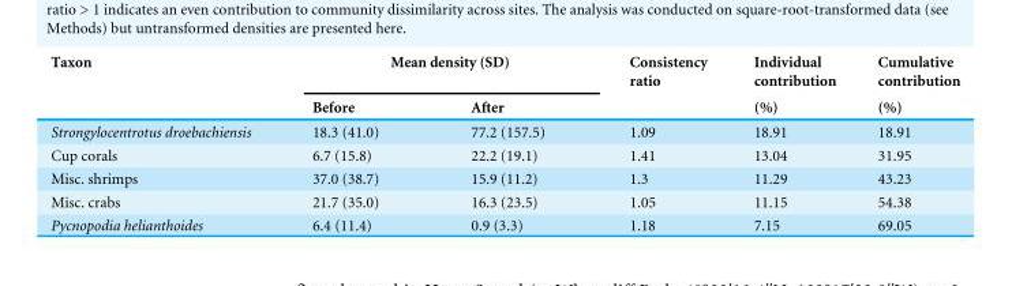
<table><thead><tr><td rowspan="2">Taxon</td><td colspan="2">Mean density (SD)</td><td rowspan="2">Consistency ratio</td><td rowspan="2">Individual contribution (%)</td><td rowspan="2">Cumulative contribution (%)</td></tr><tr><td>Before</td><td>After</td></tr></thead><tbody><tr><td>Strongylocentrotus droebachiensis</td><td>18.3 (41.0)</td><td>77.2 (157.5)</td><td>1.09</td><td>18.91</td><td>18.91</td></tr><tr><td>Cup corals</td><td>6.7 (15.8)</td><td>22.2 (19.1)</td><td>1.41</td><td>13.04</td><td>31.95</td></tr><tr><td>Misc. shrimps</td><td>37.0 (38.7)</td><td>15.9 (11.2)</td><td>1.3</td><td>11.29</td><td>43.23</td></tr><tr><td>Misc. crabs</td><td>21.7 (35.0)</td><td>16.3 (23.5)</td><td>1.05</td><td>11.15</td><td>54.38</td></tr><tr><td>Pycnopodia helianthoides</td><td>6.4 (11.4)</td><td>0.9 (3.3)</td><td>1.18</td><td>7.15</td><td>69.05</td></tr></tbody></table>